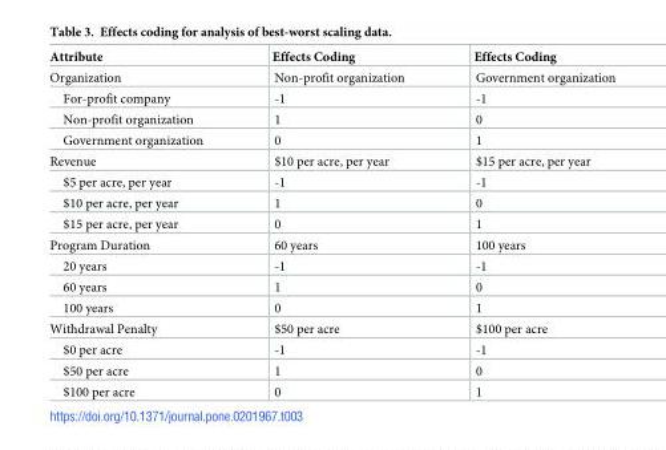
<table><thead><tr><td>Attribute</td><td>Effects Coding</td><td>Effects Coding</td></tr></thead><tbody><tr><td>Organization</td><td>Non-profit organization</td><td>Government organization</td></tr><tr><td>For-profit company</td><td>-1</td><td>-1</td></tr><tr><td>Non-profit organization</td><td>1</td><td>0</td></tr><tr><td>Government organization</td><td>0</td><td>1</td></tr><tr><td>Revenue</td><td>$10 per acre, per year</td><td>$15 per acre, per year</td></tr><tr><td>$5 per acre, per year</td><td>-1</td><td>-1</td></tr><tr><td>$10 per acre, per year</td><td>1</td><td>0</td></tr><tr><td>$15 per acre, per year</td><td>0</td><td>1</td></tr><tr><td>Program Duration</td><td>60 years</td><td>100 years</td></tr><tr><td>20 years</td><td>-1</td><td>-1</td></tr><tr><td>60 years</td><td>1</td><td>0</td></tr><tr><td>100 years</td><td>0</td><td>1</td></tr><tr><td>Withdrawal Penalty</td><td>$50 per acre</td><td>$100 per acre</td></tr><tr><td>$0 per acre</td><td>-1</td><td>-1</td></tr><tr><td>$50 per acre</td><td>1</td><td>0</td></tr><tr><td>$100 per acre</td><td>0</td><td>1</td></tr></tbody></table>